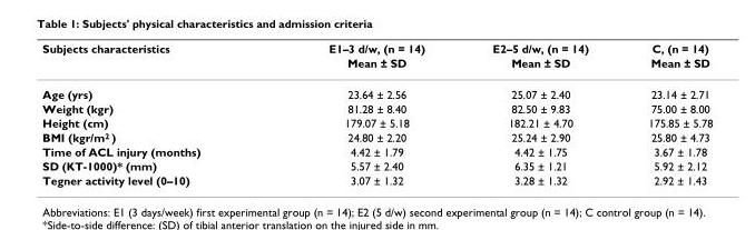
<table><thead><tr><td rowspan="2">Subjects characteristics</td><td rowspan="2">E1–3 d/w, (n = 14) Mean ± SD</td><td rowspan="2">E2–5 d/w, (n = 14) Mean ± SD</td><td rowspan="2">C, (n = 14) Mean ± SD</td></tr><tr></tr></thead><tbody><tr><td>Age (yrs)</td><td>23.64 ± 2.56</td><td>25.07 ± 2.40</td><td>23.14 ± 2.71</td></tr><tr><td>Weight (kgr)</td><td>81.28 ± 8.40</td><td>82.50 ± 9.83</td><td>75.00 ± 8.00</td></tr><tr><td>Height (cm)</td><td>179.07 ± 5.18</td><td>182.21 ± 4.70</td><td>175.85 ± 5.78</td></tr><tr><td>BMI (kgr/m<sup>2</sup> )</td><td>24.80 ± 2.20</td><td>25.24 ± 2.90</td><td>25.80 ± 4.73</td></tr><tr><td>Time of ACL injury (months)</td><td>4.42 ± 1.79</td><td>4.42 ± 1.75</td><td>3.67 ± 1.78</td></tr><tr><td>SD (KT-1000)* (mm)</td><td>5.57 ± 2.40</td><td>6.35 ± 1.21</td><td>5.92 ± 2.12</td></tr><tr><td>Tegner activity level (0–10)</td><td>3.07 ± 1.32</td><td>3.28 ± 1.32</td><td>2.92 ± 1.43</td></tr></tbody></table>